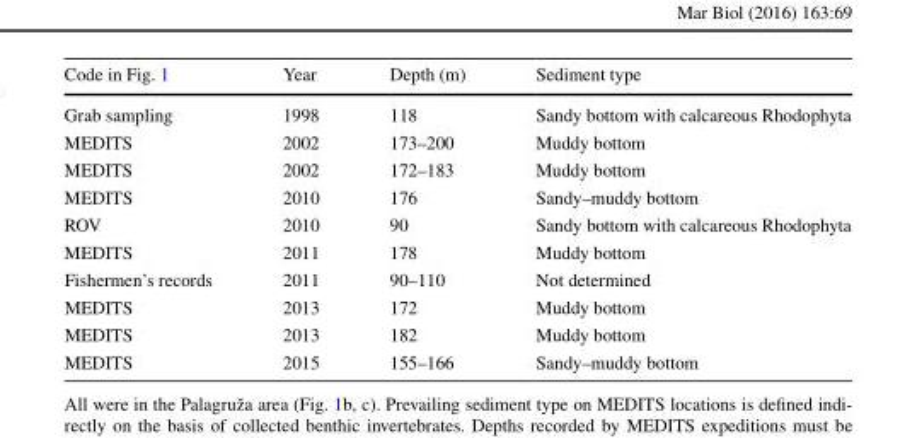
<table><thead><tr><td>Code in Fig. 1</td><td>Year</td><td>Depth (m)</td><td>Sediment type</td></tr></thead><tbody><tr><td>Grab sampling</td><td>1998</td><td>118</td><td>Sandy bottom with calcareous Rhodophyta</td></tr><tr><td>MEDITS</td><td>2002</td><td>173–200</td><td>Muddy bottom</td></tr><tr><td>MEDITS</td><td>2002</td><td>172–183</td><td>Muddy bottom</td></tr><tr><td>MEDITS</td><td>2010</td><td>176</td><td>Sandy–muddy bottom</td></tr><tr><td>ROV</td><td>2010</td><td>90</td><td>Sandy bottom with calcareous Rhodophyta</td></tr><tr><td>MEDITS</td><td>2011</td><td>178</td><td>Muddy bottom</td></tr><tr><td>Fishermen’s records</td><td>2011</td><td>90–110</td><td>Not determined</td></tr><tr><td>MEDITS</td><td>2013</td><td>172</td><td>Muddy bottom</td></tr><tr><td>MEDITS</td><td>2013</td><td>182</td><td>Muddy bottom</td></tr><tr><td>MEDITS</td><td>2015</td><td>155–166</td><td>Sandy–muddy bottom</td></tr></tbody></table>